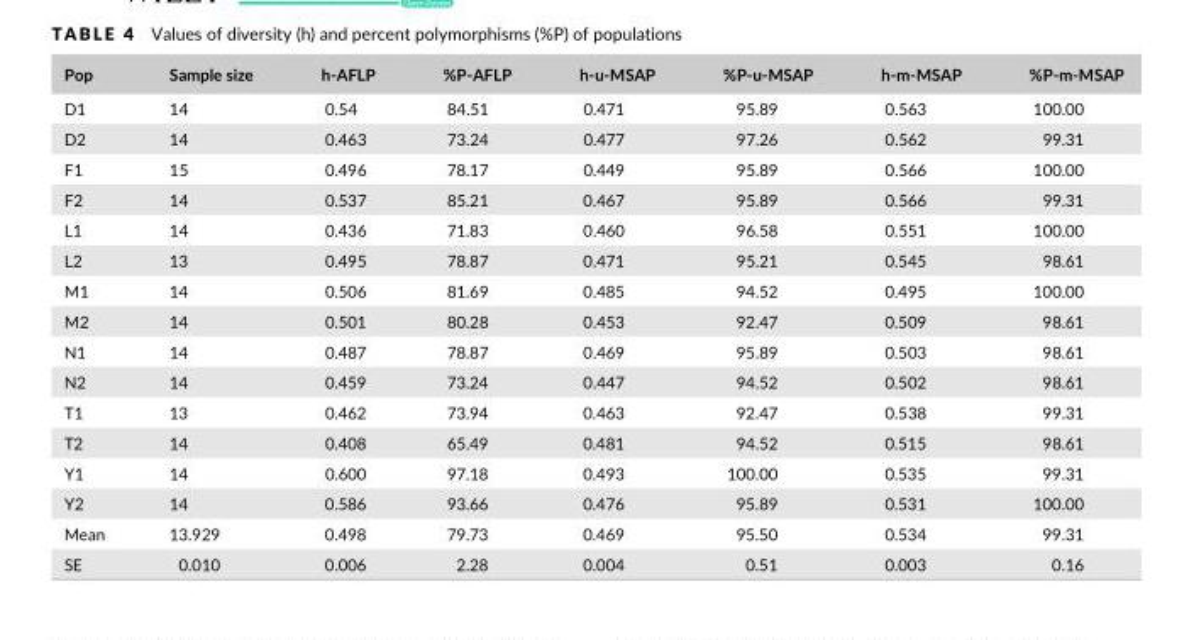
<table><thead><tr><td>Pop</td><td>Sample size</td><td>h- AFLP</td><td>%P- AFLP</td><td>h- u- MSAP</td><td>%P- u- MSAP</td><td>h- m- MSAP</td><td>%P- m- MSAP</td></tr></thead><tbody><tr><td>D1</td><td>14</td><td>0.54</td><td>84.51</td><td>0.471</td><td>95.89</td><td>0.563</td><td>100.00</td></tr><tr><td>D2</td><td>14</td><td>0.463</td><td>73.24</td><td>0.477</td><td>97.26</td><td>0.562</td><td>99.31</td></tr><tr><td>F1</td><td>15</td><td>0.496</td><td>78.17</td><td>0.449</td><td>95.89</td><td>0.566</td><td>100.00</td></tr><tr><td>F2</td><td>14</td><td>0.537</td><td>85.21</td><td>0.467</td><td>95.89</td><td>0.566</td><td>99.31</td></tr><tr><td>L1</td><td>14</td><td>0.436</td><td>71.83</td><td>0.460</td><td>96.58</td><td>0.551</td><td>100.00</td></tr><tr><td>L2</td><td>13</td><td>0.495</td><td>78.87</td><td>0.471</td><td>95.21</td><td>0.545</td><td>98.61</td></tr><tr><td>M1</td><td>14</td><td>0.506</td><td>81.69</td><td>0.485</td><td>94.52</td><td>0.495</td><td>100.00</td></tr><tr><td>M2</td><td>14</td><td>0.501</td><td>80.28</td><td>0.453</td><td>92.47</td><td>0.509</td><td>98.61</td></tr><tr><td>N1</td><td>14</td><td>0.487</td><td>78.87</td><td>0.469</td><td>95.89</td><td>0.503</td><td>98.61</td></tr><tr><td>N2</td><td>14</td><td>0.459</td><td>73.24</td><td>0.447</td><td>94.52</td><td>0.502</td><td>98.61</td></tr><tr><td>T1</td><td>13</td><td>0.462</td><td>73.94</td><td>0.463</td><td>92.47</td><td>0.538</td><td>99.31</td></tr><tr><td>T2</td><td>14</td><td>0.408</td><td>65.49</td><td>0.481</td><td>94.52</td><td>0.515</td><td>98.61</td></tr><tr><td>Y1</td><td>14</td><td>0.600</td><td>97.18</td><td>0.493</td><td>100.00</td><td>0.535</td><td>99.31</td></tr><tr><td>Y2</td><td>14</td><td>0.586</td><td>93.66</td><td>0.476</td><td>95.89</td><td>0.531</td><td>100.00</td></tr><tr><td>Mean</td><td>13.929</td><td>0.498</td><td>79.73</td><td>0.469</td><td>95.50</td><td>0.534</td><td>99.31</td></tr><tr><td>SE</td><td>0.010</td><td>0.006</td><td>2.28</td><td>0.004</td><td>0.51</td><td>0.003</td><td>0.16</td></tr></tbody></table>